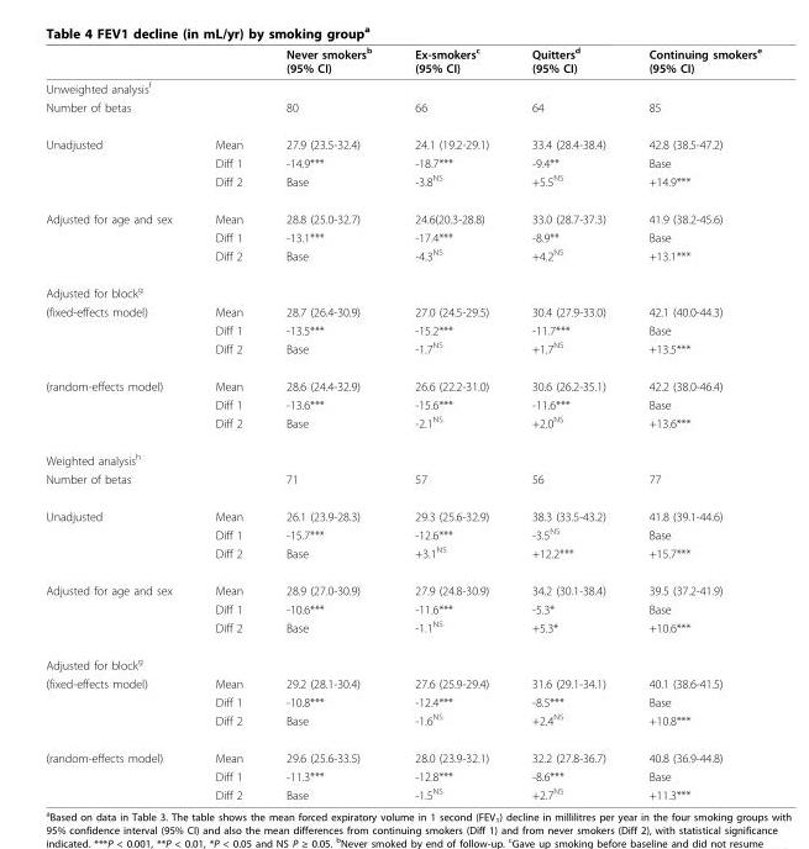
<table><thead><tr><td></td><td></td><td>Never smokers<sup>b</sup> (95% CI)</td><td>Ex-smokers<sup>c</sup> (95% CI)</td><td>Quitters<sup>d</sup> (95% CI)</td><td>Continuing smokers<sup>e</sup> (95% CI)</td></tr></thead><tbody><tr><td colspan="6">Unweighted analysis<sup>f</sup></td></tr><tr><td>Number of betas</td><td></td><td>80</td><td>66</td><td>64</td><td>85</td></tr><tr><td rowspan="3">Unadjusted</td><td>Mean</td><td>27.9 (23.5-32.4)</td><td>24.1 (19.2-29.1)</td><td>33.4 (28.4-38.4)</td><td>42.8 (38.5-47.2)</td></tr><tr><td>Diff 1</td><td>-14.9***</td><td>-18.7***</td><td>-9.4**</td><td>Base</td></tr><tr><td>Diff 2</td><td>Base</td><td>-3.8<sup>NS</sup></td><td>+5.5<sup>NS</sup></td><td>+14.9***</td></tr><tr><td rowspan="3">Adjusted for age and sex</td><td>Mean</td><td>28.8 (25.0-32.7)</td><td>24.6(20.3-28.8)</td><td>33.0 (28.7-37.3)</td><td>41.9 (38.2-45.6)</td></tr><tr><td>Diff 1</td><td>-13.1***</td><td>-17.4***</td><td>-8.9**</td><td>Base</td></tr><tr><td>Diff 2</td><td>Base</td><td>-4.3<sup>NS</sup></td><td>+4.2<sup>NS</sup></td><td>+13.1***</td></tr><tr><td colspan="6">Adjusted for block<sup>g</sup></td></tr><tr><td rowspan="3">(fixed-effects model)</td><td>Mean</td><td>28.7 (26.4-30.9)</td><td>27.0 (24.5-29.5)</td><td>30.4 (27.9-33.0)</td><td>42.1 (40.0-44.3)</td></tr><tr><td>Diff 1</td><td>-13.5***</td><td>-15.2***</td><td>-11.7***</td><td>Base</td></tr><tr><td>Diff 2</td><td>Base</td><td>-1.7<sup>NS</sup></td><td>+1.7<sup>NS</sup></td><td>+13.5***</td></tr><tr><td rowspan="3">(random-effects model)</td><td>Mean</td><td>28.6 (24.4-32.9)</td><td>26.6 (22.2-31.0)</td><td>30.6 (26.2-35.1)</td><td>42.2 (38.0-46.4)</td></tr><tr><td>Diff 1</td><td>-13.6***</td><td>-15.6***</td><td>-11.6***</td><td>Base</td></tr><tr><td>Diff 2</td><td>Base</td><td>-2.1<sup>NS</sup></td><td>+2.0<sup>NS</sup></td><td>+13.6***</td></tr><tr><td colspan="6">Weighted analysis<sup>h</sup></td></tr><tr><td>Number of betas</td><td></td><td>71</td><td>57</td><td>56</td><td>77</td></tr><tr><td rowspan="3">Unadjusted</td><td>Mean</td><td>26.1 (23.9-28.3)</td><td>29.3 (25.6-32.9)</td><td>38.3 (33.5-43.2)</td><td>41.8 (39.1-44.6)</td></tr><tr><td>Diff 1</td><td>-15.7***</td><td>-12.6***</td><td>-3.5<sup>NS</sup></td><td>Base</td></tr><tr><td>Diff 2</td><td>Base</td><td>+3.1<sup>NS</sup></td><td>+12.2***</td><td>+15.7***</td></tr><tr><td rowspan="3">Adjusted for age and sex</td><td>Mean</td><td>28.9 (27.0-30.9)</td><td>27.9 (24.8-30.9)</td><td>34.2 (30.1-38.4)</td><td>39.5 (37.2-41.9)</td></tr><tr><td>Diff 1</td><td>-10.6***</td><td>-11.6***</td><td>-5.3*</td><td>Base</td></tr><tr><td>Diff 2</td><td>Base</td><td>-1.1<sup>NS</sup></td><td>+5.3*</td><td>+10.6***</td></tr><tr><td colspan="6">Adjusted for block<sup>g</sup></td></tr><tr><td rowspan="3">(fixed-effects model)</td><td>Mean</td><td>29.2 (28.1-30.4)</td><td>27.6 (25.9-29.4)</td><td>31.6 (29.1-34.1)</td><td>40.1 (38.6-41.5)</td></tr><tr><td>Diff 1</td><td>-10.8***</td><td>-12.4***</td><td>-8.5***</td><td>Base</td></tr><tr><td>Diff 2</td><td>Base</td><td>-1.6<sup>NS</sup></td><td>+2.4<sup>NS</sup></td><td>+10.8***</td></tr><tr><td rowspan="3">(random-effects model)</td><td>Mean</td><td>29.6 (25.6-33.5)</td><td>28.0 (23.9-32.1)</td><td>32.2 (27.8-36.7)</td><td>40.8 (36.9-44.8)</td></tr><tr><td>Diff 1</td><td>-11.3***</td><td>-12.8***</td><td>-8.6***</td><td>Base</td></tr><tr><td>Diff 2</td><td>Base</td><td>-1.5<sup>NS</sup></td><td>+2.7<sup>NS</sup></td><td>+11.3***</td></tr></tbody></table>